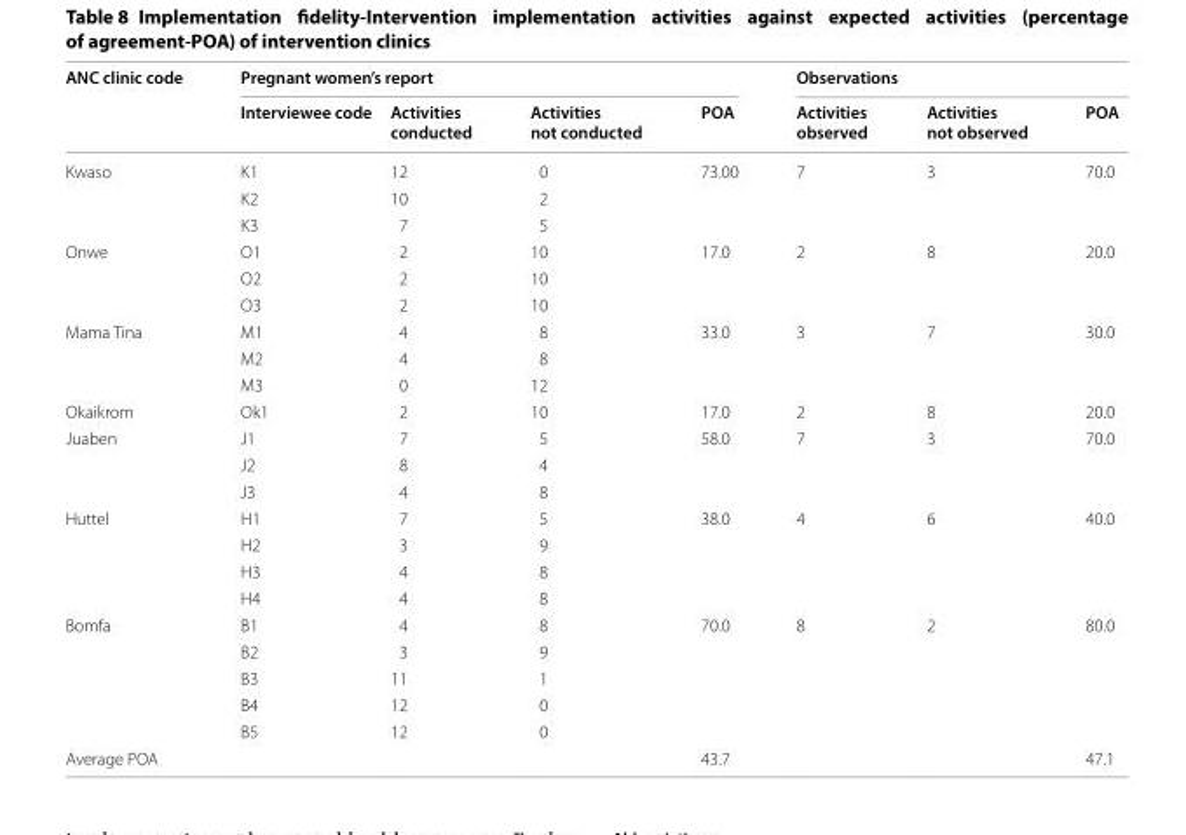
<table><thead><tr><td rowspan="2">ANC clinic code</td><td colspan="4">Pregnant women’s report</td><td colspan="3">Observations</td></tr><tr><td>Interviewee code</td><td>Activities conducted</td><td>Activities not conducted</td><td>POA</td><td>Activities observed</td><td>Activities not observed</td><td>POA</td></tr></thead><tbody><tr><td rowspan="3">Kwaso</td><td>K1</td><td>12</td><td>0</td><td>73.00</td><td>7</td><td>3</td><td>70.0</td></tr><tr><td>K2</td><td>10</td><td>2</td><td></td><td></td><td></td><td></td></tr><tr><td>K3</td><td>7</td><td>5</td><td></td><td></td><td></td><td></td></tr><tr><td rowspan="3">Onwe</td><td>O1</td><td>2</td><td>10</td><td>17.0</td><td>2</td><td>8</td><td>20.0</td></tr><tr><td>O2</td><td>2</td><td>10</td><td></td><td></td><td></td><td></td></tr><tr><td>O3</td><td>2</td><td>10</td><td></td><td></td><td></td><td></td></tr><tr><td rowspan="3">Mama Tina</td><td>M1</td><td>4</td><td>8</td><td>33.0</td><td>3</td><td>7</td><td>30.0</td></tr><tr><td>M2</td><td>4</td><td>8</td><td></td><td></td><td></td><td></td></tr><tr><td>M3</td><td>0</td><td>12</td><td></td><td></td><td></td><td></td></tr><tr><td>Okaikrom</td><td>Ok1</td><td>2</td><td>10</td><td>17.0</td><td>2</td><td>8</td><td>20.0</td></tr><tr><td rowspan="3">Juaben</td><td>J1</td><td>7</td><td>5</td><td>58.0</td><td>7</td><td>3</td><td>70.0</td></tr><tr><td>J2</td><td>8</td><td>4</td><td></td><td></td><td></td><td></td></tr><tr><td>J3</td><td>4</td><td>8</td><td></td><td></td><td></td><td></td></tr><tr><td rowspan="4">Huttel</td><td>H1</td><td>7</td><td>5</td><td>38.0</td><td>4</td><td>6</td><td>40.0</td></tr><tr><td>H2</td><td>3</td><td>9</td><td></td><td></td><td></td><td></td></tr><tr><td>H3</td><td>4</td><td>8</td><td></td><td></td><td></td><td></td></tr><tr><td>H4</td><td>4</td><td>8</td><td></td><td></td><td></td><td></td></tr><tr><td rowspan="5">Bomfa</td><td>B1</td><td>4</td><td>8</td><td>70.0</td><td>8</td><td>2</td><td>80.0</td></tr><tr><td>B2</td><td>3</td><td>9</td><td></td><td></td><td></td><td></td></tr><tr><td>B3</td><td>11</td><td>1</td><td></td><td></td><td></td><td></td></tr><tr><td>B4</td><td>12</td><td>0</td><td></td><td></td><td></td><td></td></tr><tr><td>B5</td><td>12</td><td>0</td><td></td><td></td><td></td><td></td></tr><tr><td>Average POA</td><td></td><td></td><td></td><td>43.7</td><td></td><td></td><td>47.1</td></tr></tbody></table>